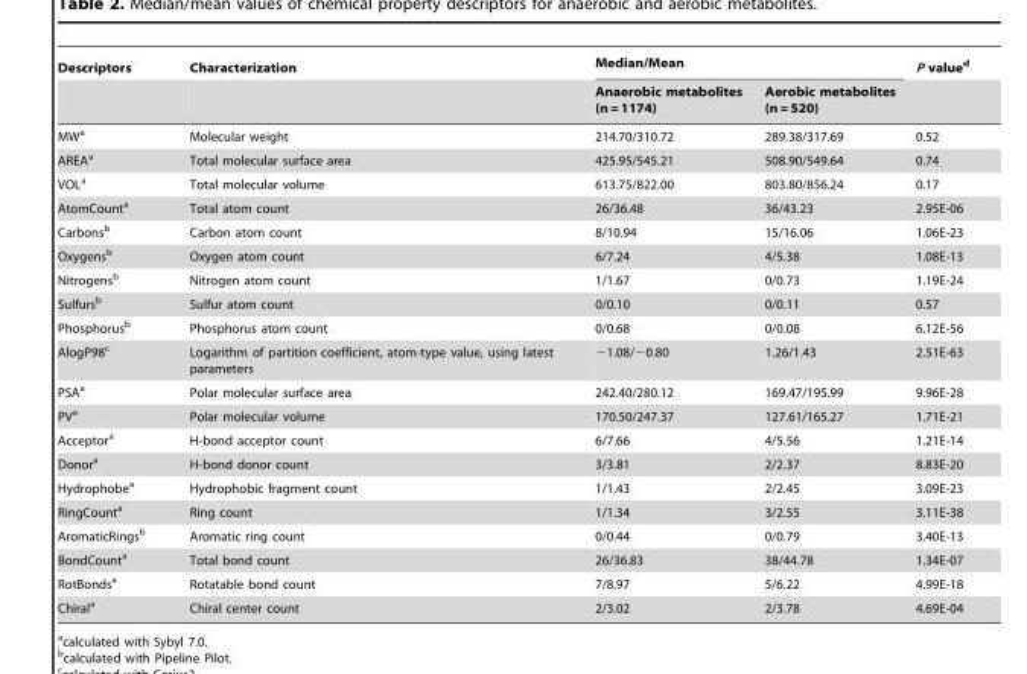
<table><thead><tr><td rowspan="2">Descriptors</td><td rowspan="2">Characterization</td><td colspan="2">Median/Mean</td><td rowspan="2">P value<sup>d</sup></td></tr><tr><td>Anaerobic metabolites (n = 1174)</td><td>Aerobic metabolites (n = 520)</td></tr></thead><tbody><tr><td>MW<sup>a</sup></td><td>Molecular weight</td><td>214.70/310.72</td><td>289.38/317.69</td><td>0.52</td></tr><tr><td>AREA<sup>a</sup></td><td>Total molecular surface area</td><td>425.95/545.21</td><td>508.90/549.64</td><td>0.74</td></tr><tr><td>VOL<sup>a</sup></td><td>Total molecular volume</td><td>613.75/822.00</td><td>803.80/856.24</td><td>0.17</td></tr><tr><td>AtomCount<sup>a</sup></td><td>Total atom count</td><td>26/36.48</td><td>36/43.23</td><td>2.95E-06</td></tr><tr><td>Carbons<sup>b</sup></td><td>Carbon atom count</td><td>8/10.94</td><td>15/16.06</td><td>1.06E-23</td></tr><tr><td>Oxygens<sup>b</sup></td><td>Oxygen atom count</td><td>6/7.24</td><td>4/5.38</td><td>1.08E-13</td></tr><tr><td>Nitrogens<sup>b</sup></td><td>Nitrogen atom count</td><td>1/1.67</td><td>0/0.73</td><td>1.19E-24</td></tr><tr><td>Sulfurs<sup>b</sup></td><td>Sulfur atom count</td><td>0/0.10</td><td>0/0.11</td><td>0.57</td></tr><tr><td>Phosphorus<sup>b</sup></td><td>Phosphorus atom count</td><td>0/0.68</td><td>0/0.08</td><td>6.12E-56</td></tr><tr><td>AlogP98<sup>c</sup></td><td>Logarithm of partition coefficient, atom-type value, using latest parameters</td><td>−1.08/−0.80</td><td>1.26/1.43</td><td>2.51E-63</td></tr><tr><td>PSA<sup>a</sup></td><td>Polar molecular surface area</td><td>242.40/280.12</td><td>169.47/195.99</td><td>9.96E-28</td></tr><tr><td>PV<sup>a</sup></td><td>Polar molecular volume</td><td>170.50/247.37</td><td>127.61/165.27</td><td>1.71E-21</td></tr><tr><td>Acceptor<sup>a</sup></td><td>H-bond acceptor count</td><td>6/7.66</td><td>4/5.56</td><td>1.21E-14</td></tr><tr><td>Donor<sup>a</sup></td><td>H-bond donor count</td><td>3/3.81</td><td>2/2.37</td><td>8.83E-20</td></tr><tr><td>Hydrophobe<sup>a</sup></td><td>Hydrophobic fragment count</td><td>1/1.43</td><td>2/2.45</td><td>3.09E-23</td></tr><tr><td>RingCount<sup>a</sup></td><td>Ring count</td><td>1/1.34</td><td>3/2.55</td><td>3.11E-38</td></tr><tr><td>AromaticRings<sup>b</sup></td><td>Aromatic ring count</td><td>0/0.44</td><td>0/0.79</td><td>3.40E-13</td></tr><tr><td>BondCount<sup>a</sup></td><td>Total bond count</td><td>26/36.83</td><td>38/44.78</td><td>1.34E-07</td></tr><tr><td>RotBonds<sup>a</sup></td><td>Rotatable bond count</td><td>7/8.97</td><td>5/6.22</td><td>4.99E-18</td></tr><tr><td>Chiral<sup>a</sup></td><td>Chiral center count</td><td>2/3.02</td><td>2/3.78</td><td>4.69E-04</td></tr></tbody></table>